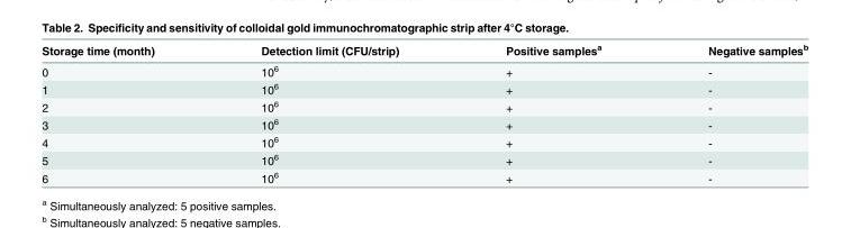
<table><thead><tr><td>Storage time (month)</td><td>Detection limit (CFU/strip)</td><td>Positive samples<sup>a</sup></td><td>Negative samples<sup>b</sup></td></tr></thead><tbody><tr><td>0</td><td>10<sup>6</sup></td><td>+</td><td>-</td></tr><tr><td>1</td><td>10<sup>6</sup></td><td>+</td><td>-</td></tr><tr><td>2</td><td>10<sup>6</sup></td><td>+</td><td>-</td></tr><tr><td>3</td><td>10<sup>6</sup></td><td>+</td><td>-</td></tr><tr><td>4</td><td>10<sup>6</sup></td><td>+</td><td>-</td></tr><tr><td>5</td><td>10<sup>6</sup></td><td>+</td><td>-</td></tr><tr><td>6</td><td>10<sup>6</sup></td><td>+</td><td>-</td></tr></tbody></table>